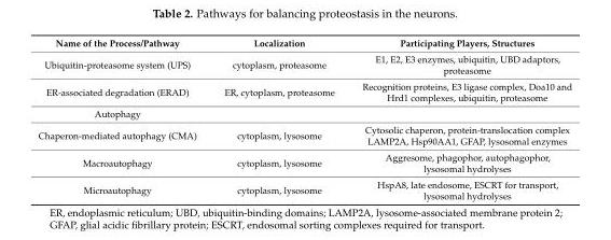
<table><thead><tr><td>Name of the Process/Pathway</td><td>Localization</td><td>Participating Players, Structures</td></tr></thead><tbody><tr><td>Ubiquitin-proteasome system (UPS)</td><td>cytoplasm, proteasome</td><td>E1, E2, E3 enzymes, ubiquitin, UBD adaptors, proteasome</td></tr><tr><td>ER-associated degradation (ERAD)</td><td>ER, cytoplasm, proteasome</td><td>Recognition proteins, E3 ligase complex, Doa10 and Hrd1 complexes, ubiquitin, proteasome</td></tr><tr><td colspan="3">Autophagy</td></tr><tr><td>Chaperon-mediated autophagy (CMA)</td><td>cytoplasm, lysosome</td><td>Cytosolic chaperon, protein-translocation complex LAMP2A, Hsp90AA1, GFAP, lysosomal enzymes</td></tr><tr><td>Macroautophagy</td><td>cytoplasm, lysosome</td><td>Aggresome, phagophor, autophagophor, lysosomal hydrolyses</td></tr><tr><td>Microautophagy</td><td>cytoplasm, lysosome</td><td>HspA8, late endosome, ESCRT for transport, lysosomal hydrolyses</td></tr></tbody></table>